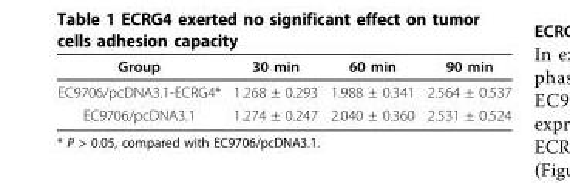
<table><thead><tr><td>Group</td><td>30 min</td><td>60 min</td><td>90 min</td></tr></thead><tbody><tr><td>EC9706/pcDNA3.1-ECRG4*</td><td>1.268 ± 0.293</td><td>1.988 ± 0.341</td><td>2.564 ± 0.537</td></tr><tr><td>EC9706/pcDNA3.1</td><td>1.274 ± 0.247</td><td>2.040 ± 0.360</td><td>2.531 ± 0.524</td></tr></tbody></table>